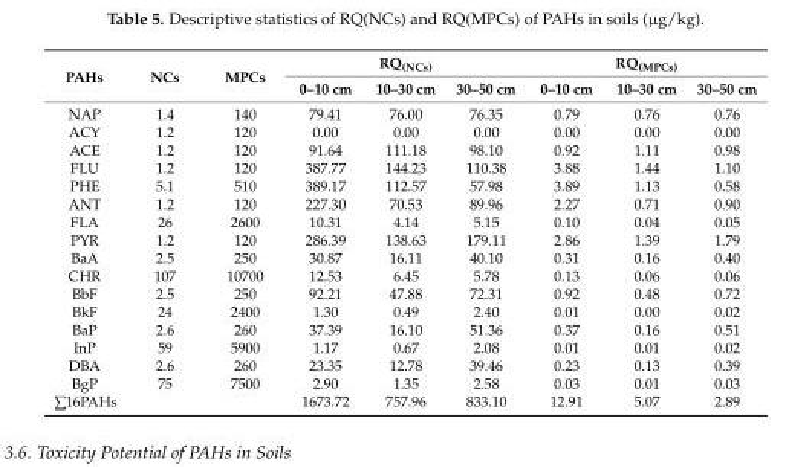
<table><thead><tr><td rowspan="2">PAHs</td><td rowspan="2">NCs</td><td rowspan="2">MPCs</td><td colspan="3">RQ<sub>(NCs)</sub></td><td colspan="3">RQ<sub>(MPCs)</sub></td></tr><tr><td>0–10 cm</td><td>10–30 cm</td><td>30–50 cm</td><td>0–10 cm</td><td>10–30 cm</td><td>30–50 cm</td></tr></thead><tbody><tr><td>NAP</td><td>1.4</td><td>140</td><td>79.41</td><td>76.00</td><td>76.35</td><td>0.79</td><td>0.76</td><td>0.76</td></tr><tr><td>ACY</td><td>1.2</td><td>120</td><td>0.00</td><td>0.00</td><td>0.00</td><td>0.00</td><td>0.00</td><td>0.00</td></tr><tr><td>ACE</td><td>1.2</td><td>120</td><td>91.64</td><td>111.18</td><td>98.10</td><td>0.92</td><td>1.11</td><td>0.98</td></tr><tr><td>FLU</td><td>1.2</td><td>120</td><td>387.77</td><td>144.23</td><td>110.38</td><td>3.88</td><td>1.44</td><td>1.10</td></tr><tr><td>PHE</td><td>5.1</td><td>510</td><td>389.17</td><td>112.57</td><td>57.98</td><td>3.89</td><td>1.13</td><td>0.58</td></tr><tr><td>ANT</td><td>1.2</td><td>120</td><td>227.30</td><td>70.53</td><td>89.96</td><td>2.27</td><td>0.71</td><td>0.90</td></tr><tr><td>FLA</td><td>26</td><td>2600</td><td>10.31</td><td>4.14</td><td>5.15</td><td>0.10</td><td>0.04</td><td>0.05</td></tr><tr><td>PYR</td><td>1.2</td><td>120</td><td>286.39</td><td>138.63</td><td>179.11</td><td>2.86</td><td>1.39</td><td>1.79</td></tr><tr><td>BaA</td><td>2.5</td><td>250</td><td>30.87</td><td>16.11</td><td>40.10</td><td>0.31</td><td>0.16</td><td>0.40</td></tr><tr><td>CHR</td><td>107</td><td>10700</td><td>12.53</td><td>6.45</td><td>5.78</td><td>0.13</td><td>0.06</td><td>0.06</td></tr><tr><td>BbF</td><td>2.5</td><td>250</td><td>92.21</td><td>47.88</td><td>72.31</td><td>0.92</td><td>0.48</td><td>0.72</td></tr><tr><td>BkF</td><td>24</td><td>2400</td><td>1.30</td><td>0.49</td><td>2.40</td><td>0.01</td><td>0.00</td><td>0.02</td></tr><tr><td>BaP</td><td>2.6</td><td>260</td><td>37.39</td><td>16.10</td><td>51.36</td><td>0.37</td><td>0.16</td><td>0.51</td></tr><tr><td>InP</td><td>59</td><td>5900</td><td>1.17</td><td>0.67</td><td>2.08</td><td>0.01</td><td>0.01</td><td>0.02</td></tr><tr><td>DBA</td><td>2.6</td><td>260</td><td>23.35</td><td>12.78</td><td>39.46</td><td>0.23</td><td>0.13</td><td>0.39</td></tr><tr><td>BgP</td><td>75</td><td>7500</td><td>2.90</td><td>1.35</td><td>2.58</td><td>0.03</td><td>0.01</td><td>0.03</td></tr><tr><td>∑16PAHs</td><td></td><td></td><td>1673.72</td><td>757.96</td><td>833.10</td><td>12.91</td><td>5.07</td><td>2.89</td></tr></tbody></table>